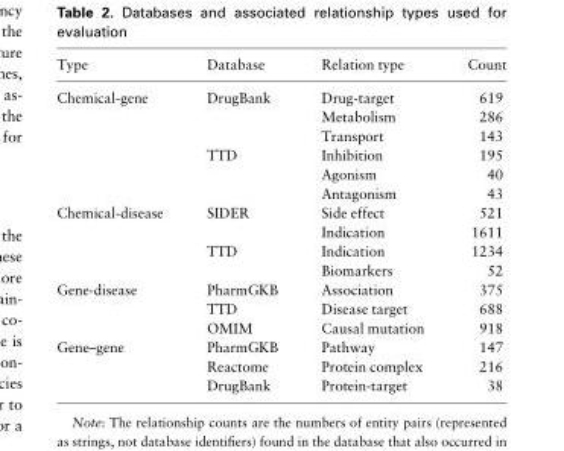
<table><thead><tr><td>Type</td><td>Database</td><td>Relation type</td><td>Count</td></tr></thead><tbody><tr><td rowspan="6">Chemical-gene</td><td>DrugBank</td><td>Drug-target</td><td>619</td></tr><tr><td rowspan="5">TTD</td><td>Metabolism</td><td>286</td></tr><tr><td>Transport</td><td>143</td></tr><tr><td>Inhibition</td><td>195</td></tr><tr><td>Agonism</td><td>40</td></tr><tr><td>Antagonism</td><td>43</td></tr><tr><td rowspan="4">Chemical-disease</td><td>SIDER</td><td>Side effect</td><td>521</td></tr><tr><td rowspan="3">TTD</td><td>Indication</td><td>1611</td></tr><tr><td>Indication</td><td>1234</td></tr><tr><td>Biomarkers</td><td>52</td></tr><tr><td rowspan="3">Gene-disease</td><td>PharmGKB</td><td>Association</td><td>375</td></tr><tr><td>TTD</td><td>Disease target</td><td>688</td></tr><tr><td>OMIM</td><td>Causal mutation</td><td>918</td></tr><tr><td rowspan="3">Gene–gene</td><td>PharmGKB</td><td>Pathway</td><td>147</td></tr><tr><td>Reactome</td><td>Protein complex</td><td>216</td></tr><tr><td>DrugBank</td><td>Protein-target</td><td>38</td></tr></tbody></table>